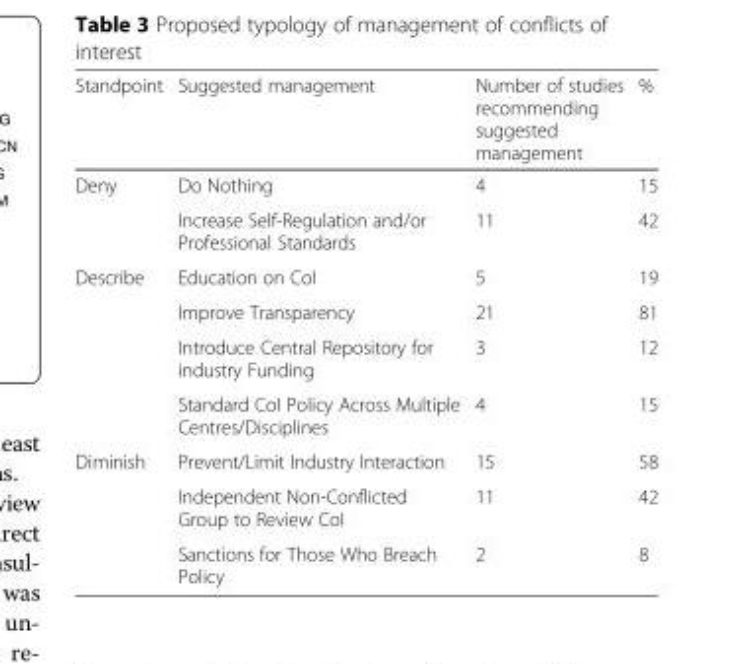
<table><thead><tr><td>Standpoint</td><td>Suggested management</td><td>Number of studies recommending suggested management</td><td>%</td></tr></thead><tbody><tr><td rowspan="2">Deny</td><td>Do Nothing</td><td>4</td><td>15</td></tr><tr><td>Increase Self-Regulation and/or Professional Standards</td><td>11</td><td>42</td></tr><tr><td rowspan="4">Describe</td><td>Education on CoI</td><td>5</td><td>19</td></tr><tr><td>Improve Transparency</td><td>21</td><td>81</td></tr><tr><td>Introduce Central Repository for industry Funding</td><td>3</td><td>12</td></tr><tr><td>Standard CoI Policy Across Multiple Centres/Disciplines</td><td>4</td><td>15</td></tr><tr><td rowspan="3">Diminish</td><td>Prevent/Limit Industry Interaction</td><td>15</td><td>58</td></tr><tr><td>Independent Non-Conflicted Group to Review CoI</td><td>11</td><td>42</td></tr><tr><td>Sanctions for Those Who Breach Policy</td><td>2</td><td>8</td></tr></tbody></table>